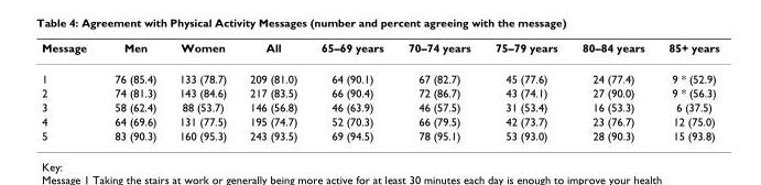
<table><thead><tr><td>Message</td><td>Men</td><td>Women</td><td>All</td><td>65–69 years</td><td>70–74 years</td><td>75–79 years</td><td>80–84 years</td><td>85+ years</td></tr></thead><tbody><tr><td>1</td><td>76 (85.4)</td><td>133 (78.7)</td><td>209 (81.0)</td><td>64 (90.1)</td><td>67 (82.7)</td><td>45 (77.6)</td><td>24 (77.4)</td><td>9 * (52.9)</td></tr><tr><td>2</td><td>74 (81.3)</td><td>143 (84.6)</td><td>217 (83.5)</td><td>66 (90.4)</td><td>72 (86.7)</td><td>43 (74.1)</td><td>27 (90.0)</td><td>9 * (56.3)</td></tr><tr><td>3</td><td>58 (62.4)</td><td>88 (53.7)</td><td>146 (56.8)</td><td>46 (63.9)</td><td>46 (57.5)</td><td>31 (53.4)</td><td>16 (53.3)</td><td>6 (37.5)</td></tr><tr><td>4</td><td>64 (69.6)</td><td>131 (77.5)</td><td>195 (74.7)</td><td>52 (70.3)</td><td>66 (79.5)</td><td>42 (73.7)</td><td>23 (76.7)</td><td>12 (75.0)</td></tr><tr><td>5</td><td>83 (90.3)</td><td>160 (95.3)</td><td>243 (93.5)</td><td>69 (94.5)</td><td>78 (95.1)</td><td>53 (93.0)</td><td>28 (90.3)</td><td>15 (93.8)</td></tr></tbody></table>